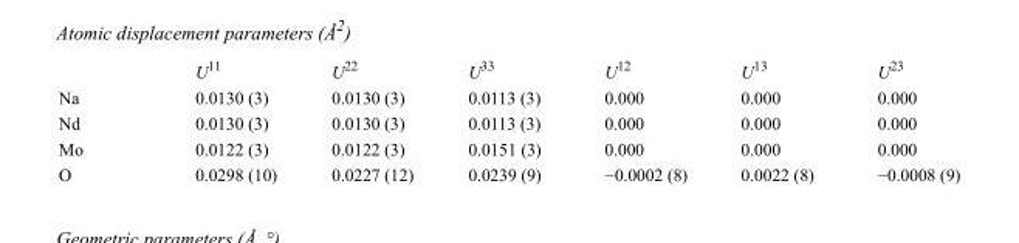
<table><thead><tr><td></td><td>U<sup>11</sup></td><td>U<sup>22</sup></td><td>U<sup>33</sup></td><td>U<sup>12</sup></td><td>U<sup>13</sup></td><td>U<sup>23</sup></td></tr></thead><tbody><tr><td>Na</td><td>0.0130 (3)</td><td>0.0130 (3)</td><td>0.0113 (3)</td><td>0.000</td><td>0.000</td><td>0.000</td></tr><tr><td>Nd</td><td>0.0130 (3)</td><td>0.0130 (3)</td><td>0.0113 (3)</td><td>0.000</td><td>0.000</td><td>0.000</td></tr><tr><td>Mo</td><td>0.0122 (3)</td><td>0.0122 (3)</td><td>0.0151 (3)</td><td>0.000</td><td>0.000</td><td>0.000</td></tr><tr><td>O</td><td>0.0298 (10)</td><td>0.0227 (12)</td><td>0.0239 (9)</td><td>−0.0002 (8)</td><td>0.0022 (8)</td><td>−0.0008 (9)</td></tr></tbody></table>